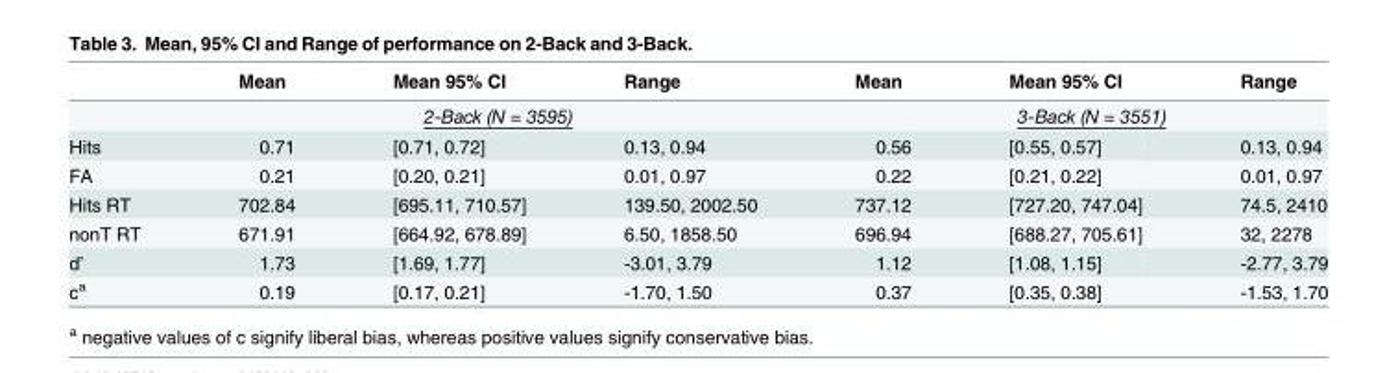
<table><thead><tr><td></td><td>Mean</td><td>Mean 95% CI</td><td>Range</td><td>Mean</td><td>Mean 95% CI</td><td>Range</td></tr></thead><tbody><tr><td></td><td colspan="3">2-Back (N = 3595)</td><td colspan="3">3-Back (N = 3551)</td></tr><tr><td>Hits</td><td>0.71</td><td>[0.71, 0.72]</td><td>0.13, 0.94</td><td>0.56</td><td>[0.55, 0.57]</td><td>0.13, 0.94</td></tr><tr><td>FA</td><td>0.21</td><td>[0.20, 0.21]</td><td>0.01, 0.97</td><td>0.22</td><td>[0.21, 0.22]</td><td>0.01, 0.97</td></tr><tr><td>Hits RT</td><td>702.84</td><td>[695.11, 710.57]</td><td>139.50, 2002.50</td><td>737.12</td><td>[727.20, 747.04]</td><td>74.5, 2410</td></tr><tr><td>nonT RT</td><td>671.91</td><td>[664.92, 678.89]</td><td>6.50, 1858.50</td><td>696.94</td><td>[688.27, 705.61]</td><td>32, 2278</td></tr><tr><td>d’</td><td>1.73</td><td>[1.69, 1.77]</td><td>-3.01, 3.79</td><td>1.12</td><td>[1.08, 1.15]</td><td>-2.77, 3.79</td></tr><tr><td>c<sup>a</sup></td><td>0.19</td><td>[0.17, 0.21]</td><td>-1.70, 1.50</td><td>0.37</td><td>[0.35, 0.38]</td><td>-1.53, 1.70</td></tr></tbody></table>